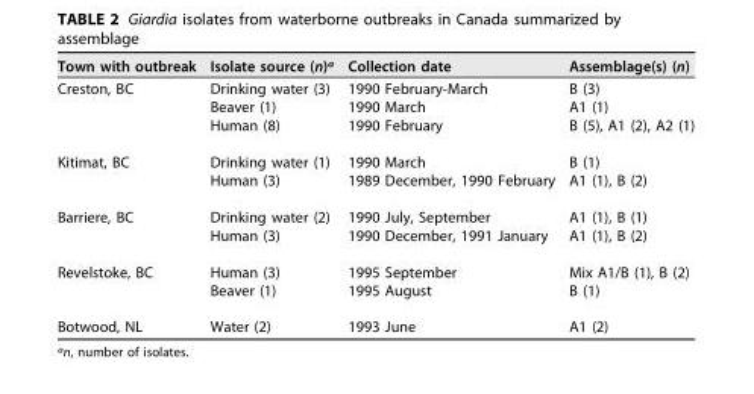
<table><thead><tr><td>Town with outbreak</td><td>Isolate source (n)<sup>a</sup></td><td>Collection date</td><td>Assemblage(s) (n)</td></tr></thead><tbody><tr><td rowspan="3">Creston, BC</td><td>Drinking water (3)</td><td>1990 February-March</td><td>B (3)</td></tr><tr><td>Beaver (1)</td><td>1990 March</td><td>A1 (1)</td></tr><tr><td>Human (8)</td><td>1990 February</td><td>B (5), A1 (2), A2 (1)</td></tr><tr><td rowspan="2">Kitimat, BC</td><td>Drinking water (1)</td><td>1990 March</td><td>B (1)</td></tr><tr><td>Human (3)</td><td>1989 December, 1990 February</td><td>A1 (1), B (2)</td></tr><tr><td rowspan="2">Barriere, BC</td><td>Drinking water (2)</td><td>1990 July, September</td><td>A1 (1), B (1)</td></tr><tr><td>Human (3)</td><td>1990 December, 1991 January</td><td>A1 (1), B (2)</td></tr><tr><td rowspan="2">Revelstoke, BC</td><td>Human (3)</td><td>1995 September</td><td>Mix A1/B (1), B (2)</td></tr><tr><td>Beaver (1)</td><td>1995 August</td><td>B (1)</td></tr><tr><td>Botwood, NL</td><td>Water (2)</td><td>1993 June</td><td>A1 (2)</td></tr></tbody></table>